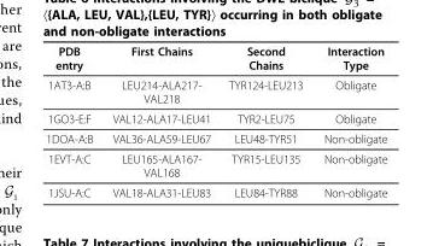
<table><thead><tr><td>PDB entry</td><td>First Chains</td><td>Second Chains</td><td>Interaction Type</td></tr></thead><tbody><tr><td>1AT3-A:B</td><td>LEU214-ALA217- VAL218</td><td>TYR124-LEU213</td><td>Obligate</td></tr><tr><td>1GO3-E:F</td><td>VAL12-ALA17-LEU41</td><td>TYR2-LEU75</td><td>Obligate</td></tr><tr><td>1DOA-A:B</td><td>VAL36-ALA59-LEU67</td><td>LEU48-TYR51</td><td>Non-obligate</td></tr><tr><td>1EVT-A:C</td><td>LEU165-ALA167- VAL168</td><td>TYR15-LEU135</td><td>Non-obligate</td></tr><tr><td>1JSU-A:C</td><td>VAL18-ALA31-LEU83</td><td>LEU84-TYR88</td><td>Non-obligate</td></tr></tbody></table>